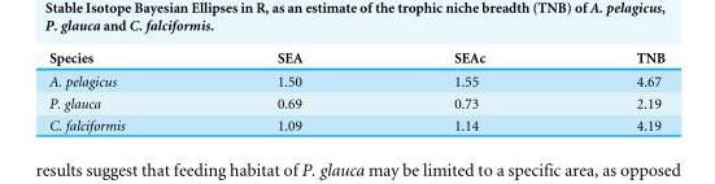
<table><thead><tr><td>Species</td><td>SEA</td><td>SEAc</td><td>TNB</td></tr></thead><tbody><tr><td>A. pelagicus</td><td>1.50</td><td>1.55</td><td>4.67</td></tr><tr><td>P. glauca</td><td>0.69</td><td>0.73</td><td>2.19</td></tr><tr><td>C. falciformis</td><td>1.09</td><td>1.14</td><td>4.19</td></tr></tbody></table>